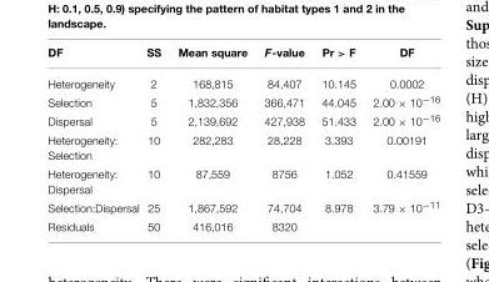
<table><thead><tr><td>DF</td><td>SS</td><td>Mean square</td><td>F-value</td><td>Pr &gt; F</td><td>DF</td></tr></thead><tbody><tr><td>Heterogeneity</td><td>2</td><td>168,815</td><td>84,407</td><td>10.145</td><td>0.0002</td></tr><tr><td>Selection</td><td>5</td><td>1,832,356</td><td>366,471</td><td>44.045</td><td>2.00 × 10<sup>−16</sup></td></tr><tr><td>Dispersal</td><td>5</td><td>2,139,692</td><td>427,938</td><td>51.433</td><td>2.00 × 10<sup>−16</sup></td></tr><tr><td>Heterogeneity: Selection</td><td>10</td><td>282,283</td><td>28,228</td><td>3.393</td><td>0.00191</td></tr><tr><td>Heterogeneity: Dispersal</td><td>10</td><td>87,559</td><td>8756</td><td>1.052</td><td>0.41559</td></tr><tr><td>Selection:Dispersal</td><td>25</td><td>1,867,592</td><td>74,704</td><td>8.978</td><td>3.79 × 10<sup>−11</sup></td></tr><tr><td>Residuals</td><td>50</td><td>416,016</td><td>8320</td><td></td><td></td></tr></tbody></table>